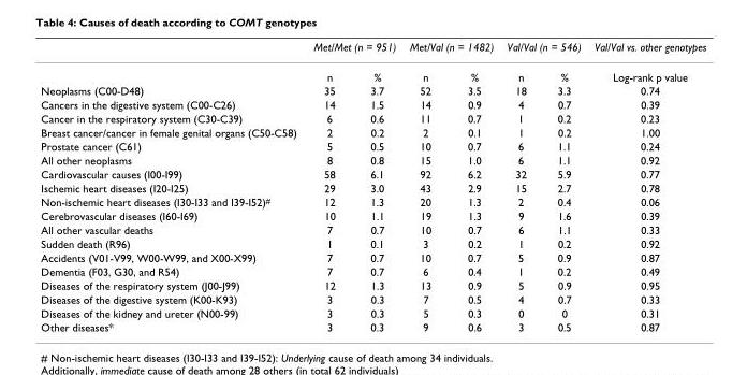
<table><thead><tr><td rowspan="2"></td><td colspan="2">Met/Met (n = 951)</td><td colspan="2">Met/Val (n = 1482)</td><td colspan="2">Val/Val (n = 546)</td><td rowspan="2">Val/Val vs. other genotypes Log-rank p value</td></tr><tr><td>n</td><td>%</td><td>n</td><td>%</td><td>n</td><td>%</td></tr></thead><tbody><tr><td>Neoplasms (C00-D48)</td><td>35</td><td>3.7</td><td>52</td><td>3.5</td><td>18</td><td>3.3</td><td>0.74</td></tr><tr><td>Cancers in the digestive system (C00-C26)</td><td>14</td><td>1.5</td><td>14</td><td>0.9</td><td>4</td><td>0.7</td><td>0.39</td></tr><tr><td>Cancer in the respiratory system (C30-C39)</td><td>6</td><td>0.6</td><td>11</td><td>0.7</td><td>1</td><td>0.2</td><td>0.23</td></tr><tr><td>Breast cancer/cancer in female genital organs (C50-C58)</td><td>2</td><td>0.2</td><td>2</td><td>0.1</td><td>1</td><td>0.2</td><td>1.00</td></tr><tr><td>Prostate cancer (C61)</td><td>5</td><td>0.5</td><td>10</td><td>0.7</td><td>6</td><td>1.1</td><td>0.24</td></tr><tr><td>All other neoplasms</td><td>8</td><td>0.8</td><td>15</td><td>1.0</td><td>6</td><td>1.1</td><td>0.92</td></tr><tr><td>Cardiovascular causes (I00-I99)</td><td>58</td><td>6.1</td><td>92</td><td>6.2</td><td>32</td><td>5.9</td><td>0.77</td></tr><tr><td>Ischemic heart diseases (I20-I25)</td><td>29</td><td>3.0</td><td>43</td><td>2.9</td><td>15</td><td>2.7</td><td>0.78</td></tr><tr><td>Non-ischemic heart diseases (I30-I33 and I39-I52)<sup>#</sup></td><td>12</td><td>1.3</td><td>20</td><td>1.3</td><td>2</td><td>0.4</td><td>0.06</td></tr><tr><td>Cerebrovascular diseases (I60-I69)</td><td>10</td><td>1.1</td><td>19</td><td>1.3</td><td>9</td><td>1.6</td><td>0.39</td></tr><tr><td>All other vascular deaths</td><td>7</td><td>0.7</td><td>10</td><td>0.7</td><td>6</td><td>1.1</td><td>0.33</td></tr><tr><td>Sudden death (R96)</td><td>1</td><td>0.1</td><td>3</td><td>0.2</td><td>1</td><td>0.2</td><td>0.92</td></tr><tr><td>Accidents (V01-V99, W00-W99, and X00-X99)</td><td>7</td><td>0.7</td><td>10</td><td>0.7</td><td>5</td><td>0.9</td><td>0.87</td></tr><tr><td>Dementia (F03, G30, and R54)</td><td>7</td><td>0.7</td><td>6</td><td>0.4</td><td>1</td><td>0.2</td><td>0.49</td></tr><tr><td>Diseases of the respiratory system (J00-J99)</td><td>12</td><td>1.3</td><td>13</td><td>0.9</td><td>5</td><td>0.9</td><td>0.95</td></tr><tr><td>Diseases of the digestive system (K00-K93)</td><td>3</td><td>0.3</td><td>7</td><td>0.5</td><td>4</td><td>0.7</td><td>0.33</td></tr><tr><td>Diseases of the kidney and ureter (N00-99)</td><td>3</td><td>0.3</td><td>5</td><td>0.3</td><td>0</td><td>0</td><td>0.31</td></tr><tr><td>Other diseases*</td><td>3</td><td>0.3</td><td>9</td><td>0.6</td><td>3</td><td>0.5</td><td>0.87</td></tr></tbody></table>